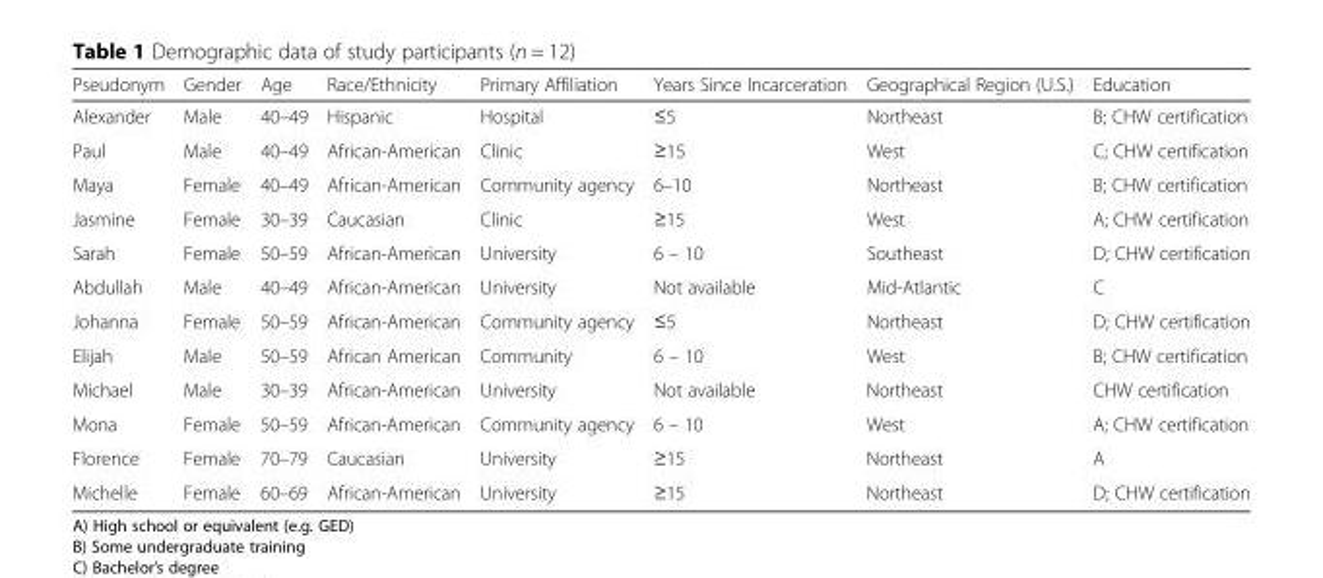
<table><thead><tr><td>Pseudonym</td><td>Gender</td><td>Age</td><td>Race/Ethnicity</td><td>Primary Affiliation</td><td>Years Since Incarceration</td><td>Geographical Region (U.S.)</td><td>Education</td></tr></thead><tbody><tr><td>Alexander</td><td>Male</td><td>40–49</td><td>Hispanic</td><td>Hospital</td><td>≤5</td><td>Northeast</td><td>B; CHW certification</td></tr><tr><td>Paul</td><td>Male</td><td>40–49</td><td>African-American</td><td>Clinic</td><td>≥15</td><td>West</td><td>C; CHW certification</td></tr><tr><td>Maya</td><td>Female</td><td>40–49</td><td>African-American</td><td>Community agency</td><td>6–10</td><td>Northeast</td><td>B; CHW certification</td></tr><tr><td>Jasmine</td><td>Female</td><td>30–39</td><td>Caucasian</td><td>Clinic</td><td>≥15</td><td>West</td><td>A; CHW certification</td></tr><tr><td>Sarah</td><td>Female</td><td>50–59</td><td>African-American</td><td>University</td><td>6 – 10</td><td>Southeast</td><td>D; CHW certification</td></tr><tr><td>Abdullah</td><td>Male</td><td>40–49</td><td>African-American</td><td>University</td><td>Not available</td><td>Mid-Atlantic</td><td>C</td></tr><tr><td>Johanna</td><td>Female</td><td>50–59</td><td>African-American</td><td>Community agency</td><td>≤5</td><td>Northeast</td><td>D; CHW certification</td></tr><tr><td>Elijah</td><td>Male</td><td>50–59</td><td>African American</td><td>Community</td><td>6 – 10</td><td>West</td><td>B; CHW certification</td></tr><tr><td>Michael</td><td>Male</td><td>30–39</td><td>African-American</td><td>University</td><td>Not available</td><td>Northeast</td><td>CHW certification</td></tr><tr><td>Mona</td><td>Female</td><td>50–59</td><td>African-American</td><td>Community agency</td><td>6 – 10</td><td>West</td><td>A; CHW certification</td></tr><tr><td>Florence</td><td>Female</td><td>70–79</td><td>Caucasian</td><td>University</td><td>≥15</td><td>Northeast</td><td>A</td></tr><tr><td>Michelle</td><td>Female</td><td>60–69</td><td>African-American</td><td>University</td><td>≥15</td><td>Northeast</td><td>D; CHW certification</td></tr></tbody></table>